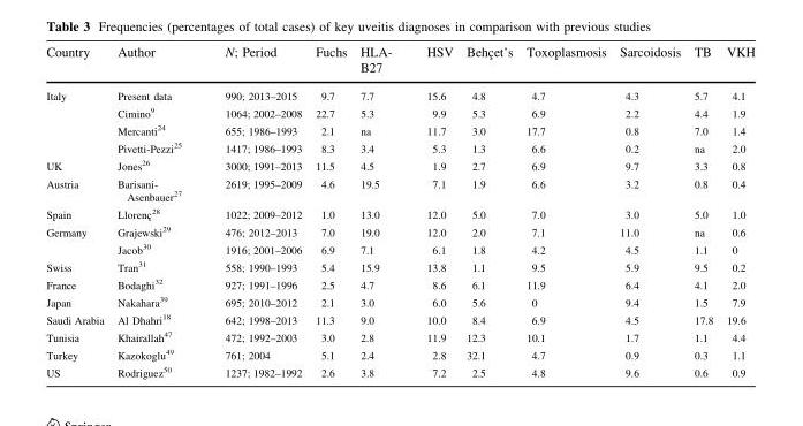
<table><thead><tr><td>Country</td><td>Author</td><td>N; Period</td><td>Fuchs</td><td>HLA- B27</td><td>HSV</td><td>Behc¸et’s</td><td>Toxoplasmosis</td><td>Sarcoidosis</td><td>TB</td><td>VKH</td></tr></thead><tbody><tr><td rowspan="4">Italy</td><td>Present data</td><td>990; 2013–2015</td><td>9.7</td><td>7.7</td><td>15.6</td><td>4.8</td><td>4.7</td><td>4.3</td><td>5.7</td><td>4.1</td></tr><tr><td>Cimino<sup>9</sup></td><td>1064; 2002–2008</td><td>22.7</td><td>5.3</td><td>9.9</td><td>5.3</td><td>6.9</td><td>2.2</td><td>4.4</td><td>1.9</td></tr><tr><td>Mercanti<sup>24</sup></td><td>655; 1986–1993</td><td>2.1</td><td>na</td><td>11.7</td><td>3.0</td><td>17.7</td><td>0.8</td><td>7.0</td><td>1.4</td></tr><tr><td>Pivetti-Pezzi<sup>25</sup></td><td>1417; 1986–1993</td><td>8.3</td><td>3.4</td><td>5.3</td><td>1.3</td><td>6.6</td><td>0.2</td><td>na</td><td>2.0</td></tr><tr><td>UK</td><td>Jones<sup>26</sup></td><td>3000; 1991–2013</td><td>11.5</td><td>4.5</td><td>1.9</td><td>2.7</td><td>6.9</td><td>9.7</td><td>3.3</td><td>0.8</td></tr><tr><td>Austria</td><td>Barisani- Asenbauer<sup>27</sup></td><td>2619; 1995–2009</td><td>4.6</td><td>19.5</td><td>7.1</td><td>1.9</td><td>6.6</td><td>3.2</td><td>0.8</td><td>0.4</td></tr><tr><td>Spain</td><td>Llorenc¸28</td><td>1022; 2009–2012</td><td>1.0</td><td>13.0</td><td>12.0</td><td>5.0</td><td>7.0</td><td>3.0</td><td>5.0</td><td>1.0</td></tr><tr><td rowspan="2">Germany</td><td>Grajewski<sup>29</sup></td><td>476; 2012–2013</td><td>7.0</td><td>19.0</td><td>12.0</td><td>2.0</td><td>7.1</td><td>11.0</td><td>na</td><td>0.6</td></tr><tr><td>Jacob<sup>30</sup></td><td>1916; 2001–2006</td><td>6.9</td><td>7.1</td><td>6.1</td><td>1.8</td><td>4.2</td><td>4.5</td><td>1.1</td><td>0</td></tr><tr><td>Swiss</td><td>Tran<sup>31</sup></td><td>558; 1990–1993</td><td>5.4</td><td>15.9</td><td>13.8</td><td>1.1</td><td>9.5</td><td>5.9</td><td>9.5</td><td>0.2</td></tr><tr><td>France</td><td>Bodaghi<sup>32</sup></td><td>927; 1991–1996</td><td>2.5</td><td>4.7</td><td>8.6</td><td>6.1</td><td>11.9</td><td>6.4</td><td>4.1</td><td>2.0</td></tr><tr><td>Japan</td><td>Nakahara<sup>39</sup></td><td>695; 2010–2012</td><td>2.1</td><td>3.0</td><td>6.0</td><td>5.6</td><td>0</td><td>9.4</td><td>1.5</td><td>7.9</td></tr><tr><td>Saudi Arabia</td><td>Al Dhahri<sup>18</sup></td><td>642; 1998–2013</td><td>11.3</td><td>9.0</td><td>10.0</td><td>8.4</td><td>6.9</td><td>4.5</td><td>17.8</td><td>19.6</td></tr><tr><td>Tunisia</td><td>Khairallah<sup>47</sup></td><td>472; 1992–2003</td><td>3.0</td><td>2.8</td><td>11.9</td><td>12.3</td><td>10.1</td><td>1.7</td><td>1.1</td><td>4.4</td></tr><tr><td>Turkey</td><td>Kazokoglu<sup>49</sup></td><td>761; 2004</td><td>5.1</td><td>2.4</td><td>2.8</td><td>32.1</td><td>4.7</td><td>0.9</td><td>0.3</td><td>1.1</td></tr><tr><td>US</td><td>Rodriguez<sup>50</sup></td><td>1237; 1982–1992</td><td>2.6</td><td>3.8</td><td>7.2</td><td>2.5</td><td>4.8</td><td>9.6</td><td>0.6</td><td>0.9</td></tr></tbody></table>